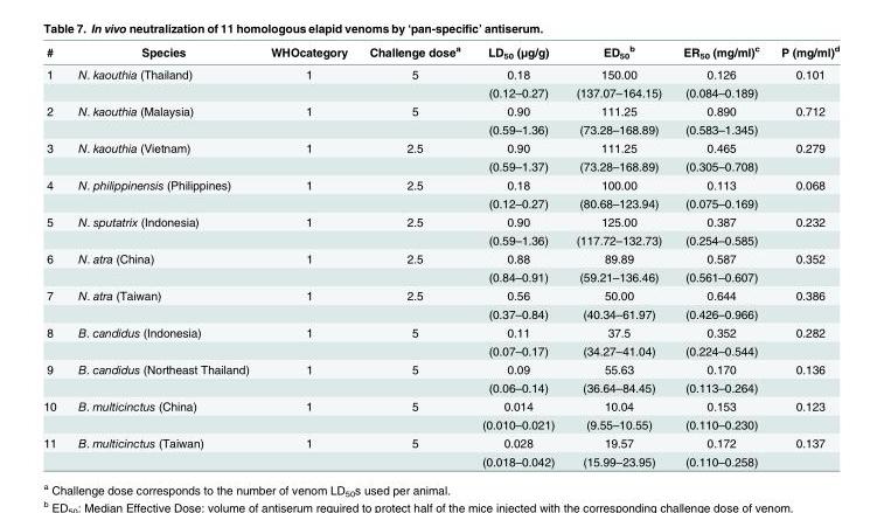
<table><thead><tr><td>#</td><td>Species</td><td>WHOcategory</td><td>Challenge dose<sup>a</sup></td><td>LD<sub>50</sub> (μg/g)</td><td>ED<sub>50</sub> <sup>b</sup></td><td>ER<sub>50</sub> (mg/ml)<sup>c</sup></td><td>P (mg/ml)<sup>d</sup></td></tr></thead><tbody><tr><td rowspan="2">1</td><td>N. kaouthia (Thailand)</td><td>1</td><td>5</td><td>0.18</td><td>150.00</td><td>0.126</td><td>0.101</td></tr><tr><td></td><td></td><td></td><td>(0.12–0.27)</td><td>(137.07–164.15)</td><td>(0.084–0.189)</td><td></td></tr><tr><td rowspan="2">2</td><td>N. kaouthia (Malaysia)</td><td>1</td><td>5</td><td>0.90</td><td>111.25</td><td>0.890</td><td>0.712</td></tr><tr><td></td><td></td><td></td><td>(0.59–1.36)</td><td>(73.28–168.89)</td><td>(0.583–1.345)</td><td></td></tr><tr><td rowspan="2">3</td><td>N. kaouthia (Vietnam)</td><td>1</td><td>2.5</td><td>0.90</td><td>111.25</td><td>0.465</td><td>0.279</td></tr><tr><td></td><td></td><td></td><td>(0.59–1.37)</td><td>(73.28–168.89)</td><td>(0.305–0.708)</td><td></td></tr><tr><td rowspan="2">4</td><td>N. philippinensis (Philippines)</td><td>1</td><td>2.5</td><td>0.18</td><td>100.00</td><td>0.113</td><td>0.068</td></tr><tr><td></td><td></td><td></td><td>(0.12–0.27)</td><td>(80.68–123.94)</td><td>(0.075–0.169)</td><td></td></tr><tr><td rowspan="2">5</td><td>N. sputatrix (Indonesia)</td><td>1</td><td>2.5</td><td>0.90</td><td>125.00</td><td>0.387</td><td>0.232</td></tr><tr><td></td><td></td><td></td><td>(0.59–1.36)</td><td>(117.72–132.73)</td><td>(0.254–0.585)</td><td></td></tr><tr><td rowspan="2">6</td><td>N. atra (China)</td><td>1</td><td>2.5</td><td>0.88</td><td>89.89</td><td>0.587</td><td>0.352</td></tr><tr><td></td><td></td><td></td><td>(0.84–0.91)</td><td>(59.21–136.46)</td><td>(0.561–0.607)</td><td></td></tr><tr><td rowspan="2">7</td><td>N. atra (Taiwan)</td><td>1</td><td>2.5</td><td>0.56</td><td>50.00</td><td>0.644</td><td>0.386</td></tr><tr><td></td><td></td><td></td><td>(0.37–0.84)</td><td>(40.34–61.97)</td><td>(0.426–0.966)</td><td></td></tr><tr><td rowspan="2">8</td><td>B. candidus (Indonesia)</td><td>1</td><td>5</td><td>0.11</td><td>37.5</td><td>0.352</td><td>0.282</td></tr><tr><td></td><td></td><td></td><td>(0.07–0.17)</td><td>(34.27–41.04)</td><td>(0.224–0.544)</td><td></td></tr><tr><td rowspan="2">9</td><td>B. candidus (Northeast Thailand)</td><td>1</td><td>5</td><td>0.09</td><td>55.63</td><td>0.170</td><td>0.136</td></tr><tr><td></td><td></td><td></td><td>(0.06–0.14)</td><td>(36.64–84.45)</td><td>(0.113–0.264)</td><td></td></tr><tr><td rowspan="2">10</td><td>B. multicinctus (China)</td><td>1</td><td>5</td><td>0.014</td><td>10.04</td><td>0.153</td><td>0.123</td></tr><tr><td></td><td></td><td></td><td>(0.010–0.021)</td><td>(9.55–10.55)</td><td>(0.110–0.230)</td><td></td></tr><tr><td rowspan="2">11</td><td>B. multicinctus (Taiwan)</td><td>1</td><td>5</td><td>0.028</td><td>19.57</td><td>0.172</td><td>0.137</td></tr><tr><td></td><td></td><td></td><td>(0.018–0.042)</td><td>(15.99–23.95)</td><td>(0.110–0.258)</td><td></td></tr></tbody></table>